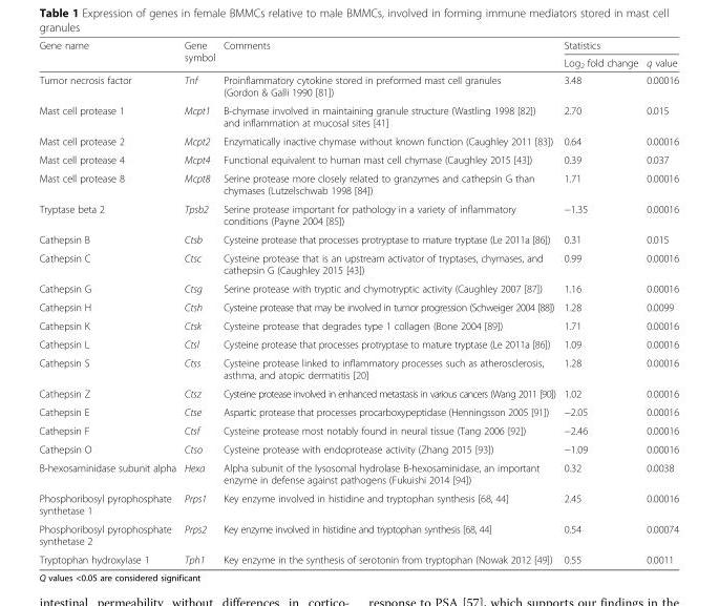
<table><thead><tr><td rowspan="2">Gene name</td><td rowspan="2">Gene symbol</td><td rowspan="2">Comments</td><td colspan="2">Statistics</td></tr><tr><td>Log<sub>2</sub> fold change</td><td>q value</td></tr></thead><tbody><tr><td>Tumor necrosis factor</td><td>Tnf</td><td>Proinflammatory cytokine stored in preformed mast cell granules (Gordon &amp; Galli 1990 [81])</td><td>3.48</td><td>0.00016</td></tr><tr><td>Mast cell protease 1</td><td>Mcpt1</td><td>B-chymase involved in maintaining granule structure (Wastling 1998 [82]) and inflammation at mucosal sites [41]</td><td>2.70</td><td>0.015</td></tr><tr><td>Mast cell protease 2</td><td>Mcpt2</td><td>Enzymatically inactive chymase without known function (Caughley 2011 [83])</td><td>0.64</td><td>0.00016</td></tr><tr><td>Mast cell protease 4</td><td>Mcpt4</td><td>Functional equivalent to human mast cell chymase (Caughley 2015 [43])</td><td>0.39</td><td>0.037</td></tr><tr><td>Mast cell protease 8</td><td>Mcpt8</td><td>Serine protease more closely related to granzymes and cathepsin G than chymases (Lutzelschwab 1998 [84])</td><td>1.71</td><td>0.00016</td></tr><tr><td>Tryptase beta 2</td><td>Tpsb2</td><td>Serine protease important for pathology in a variety of inflammatory conditions (Payne 2004 [85])</td><td>−1.35</td><td>0.00016</td></tr><tr><td>Cathepsin B</td><td>Ctsb</td><td>Cysteine protease that processes protryptase to mature tryptase (Le 2011a [86])</td><td>0.31</td><td>0.015</td></tr><tr><td>Cathepsin C</td><td>Ctsc</td><td>Cysteine protease that is an upstream activator of tryptases, chymases, and cathepsin G (Caughley 2015 [43])</td><td>0.99</td><td>0.00016</td></tr><tr><td>Cathepsin G</td><td>Ctsg</td><td>Serine protease with tryptic and chymotryptic activity (Caughley 2007 [87])</td><td>1.16</td><td>0.00016</td></tr><tr><td>Cathepsin H</td><td>Ctsh</td><td>Cysteine protease that may be involved in tumor progression (Schweiger 2004 [88])</td><td>1.28</td><td>0.0099</td></tr><tr><td>Cathepsin K</td><td>Ctsk</td><td>Cysteine protease that degrades type 1 collagen (Bone 2004 [89])</td><td>1.71</td><td>0.00016</td></tr><tr><td>Cathepsin L</td><td>Ctsl</td><td>Cysteine protease that processes protryptase to mature tryptase (Le 2011a [86])</td><td>1.09</td><td>0.00016</td></tr><tr><td>Cathepsin S</td><td>Ctss</td><td>Cysteine protease linked to inflammatory processes such as atherosclerosis, asthma, and atopic dermatitis [20]</td><td>1.28</td><td>0.00016</td></tr><tr><td>Cathepsin Z</td><td>Ctsz</td><td>Cysteine protease involved in enhanced metastasis in various cancers (Wang 2011 [90])</td><td>1.02</td><td>0.00016</td></tr><tr><td>Cathepsin E</td><td>Ctse</td><td>Aspartic protease that processes procarboxypeptidase (Henningsson 2005 [91])</td><td>−2.05</td><td>0.00016</td></tr><tr><td>Cathepsin F</td><td>Ctsf</td><td>Cysteine protease most notably found in neural tissue (Tang 2006 [92])</td><td>−2.46</td><td>0.00016</td></tr><tr><td>Cathepsin O</td><td>Ctso</td><td>Cysteine protease with endoprotease activity (Zhang 2015 [93])</td><td>−1.09</td><td>0.00016</td></tr><tr><td>B-hexosaminidase subunit alpha</td><td>Hexa</td><td>Alpha subunit of the lysosomal hydrolase B-hexosaminidase, an important enzyme in defense against pathogens (Fukuishi 2014 [94])</td><td>0.32</td><td>0.0038</td></tr><tr><td>Phosphoribosyl pyrophosphate synthetase 1</td><td>Prps1</td><td>Key enzyme involved in histidine and tryptophan synthesis [68, 44]</td><td>2.45</td><td>0.00016</td></tr><tr><td>Phosphoribosyl pyrophosphate synthetase 2</td><td>Prps2</td><td>Key enzyme involved in histidine and tryptophan synthesis [68, 44]</td><td>0.54</td><td>0.00074</td></tr><tr><td>Tryptophan hydroxylase 1</td><td>Tph1</td><td>Key enzyme in the synthesis of serotonin from tryptophan (Nowak 2012 [49])</td><td>0.55</td><td>0.0011</td></tr></tbody></table>